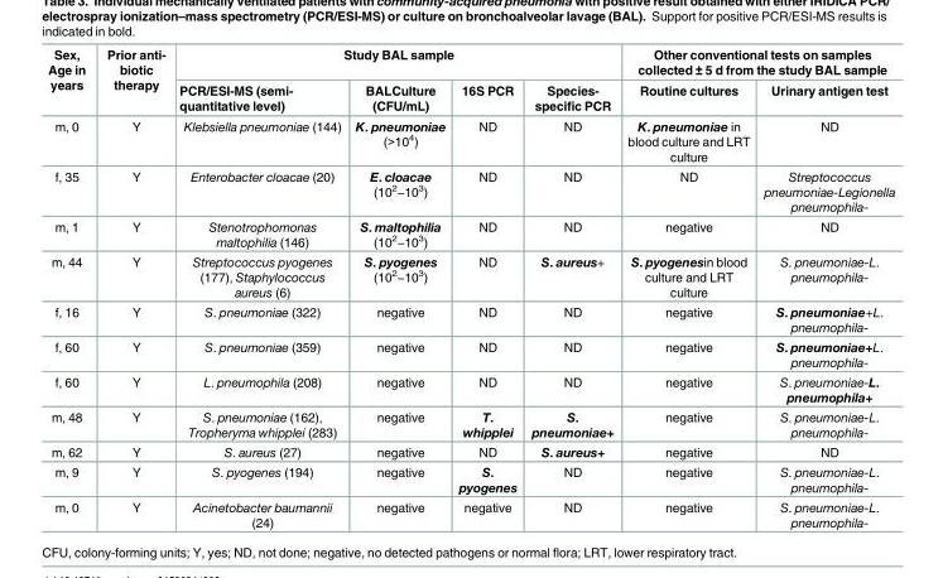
<table><thead><tr><td rowspan="2">Sex, Age in years</td><td rowspan="2">Prior anti- biotic therapy</td><td colspan="4">Study BAL sample</td><td colspan="2">Other conventional tests on samples collected ± 5 d from the study BAL sample</td></tr><tr><td>PCR/ESI-MS (semi- quantitative level)</td><td>BALCulture (CFU/mL)</td><td>16S PCR</td><td>Species- specific PCR</td><td>Routine cultures</td><td>Urinary antigen test</td></tr></thead><tbody><tr><td>m, 0</td><td>Y</td><td>Klebsiella pneumoniae (144)</td><td>K. pneumoniae (&gt;10<sup>4</sup>)</td><td>ND</td><td>ND</td><td>K. pneumoniae in blood culture and LRT culture</td><td>ND</td></tr><tr><td>f, 35</td><td>Y</td><td>Enterobacter cloacae (20)</td><td>E. cloacae (10<sup>2</sup>−10<sup>3</sup>)</td><td>ND</td><td>ND</td><td>ND</td><td>Streptococcus pneumoniae-Legionella pneumophila-</td></tr><tr><td>m, 1</td><td>Y</td><td>Stenotrophomonas maltophilia (146)</td><td>S. maltophilia (10<sup>2</sup>−10<sup>3</sup>)</td><td>ND</td><td>ND</td><td>negative</td><td>ND</td></tr><tr><td>m, 44</td><td>Y</td><td>Streptococcus pyogenes (177), Staphylococcus aureus (6)</td><td>S. pyogenes (10<sup>2</sup>−10<sup>3</sup>)</td><td>ND</td><td>S. aureus+</td><td>S. pyogenesin blood culture and LRT culture</td><td>S. pneumoniae-L. pneumophila-</td></tr><tr><td>f, 16</td><td>Y</td><td>S. pneumoniae (322)</td><td>negative</td><td>ND</td><td>ND</td><td>negative</td><td>S. pneumoniae+L. pneumophila-</td></tr><tr><td>f, 60</td><td>Y</td><td>S. pneumoniae (359)</td><td>negative</td><td>ND</td><td>ND</td><td>negative</td><td>S. pneumoniae+L. pneumophila-</td></tr><tr><td>f, 60</td><td>Y</td><td>L. pneumophila (208)</td><td>negative</td><td>ND</td><td>ND</td><td>negative</td><td>S. pneumoniae-L. pneumophila+</td></tr><tr><td>m, 48</td><td>Y</td><td>S. pneumoniae (162), Tropheryma whipplei (283)</td><td>negative</td><td>T. whipplei</td><td>S. pneumoniae+</td><td>negative</td><td>S. pneumoniae-L. pneumophila-</td></tr><tr><td>m, 62</td><td>Y</td><td>S. aureus (27)</td><td>negative</td><td>ND</td><td>S. aureus+</td><td>negative</td><td>ND</td></tr><tr><td>m, 9</td><td>Y</td><td>S. pyogenes (194)</td><td>negative</td><td>S. pyogenes</td><td>ND</td><td>negative</td><td>S. pneumoniae-L. pneumophila-</td></tr><tr><td>m, 0</td><td>Y</td><td>Acinetobacter baumannii (24)</td><td>negative</td><td>negative</td><td>ND</td><td>negative</td><td>S. pneumoniae-L. pneumophila-</td></tr></tbody></table>